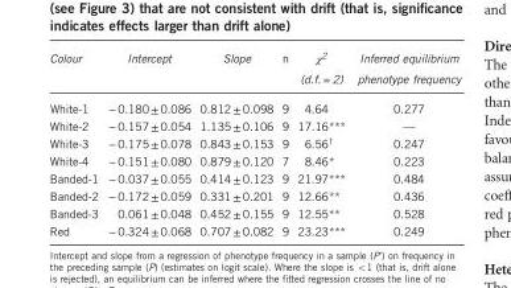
<table><thead><tr><td>Colour</td><td>Intercept</td><td>Slope</td><td>n</td><td>χ<sup>2</sup> (d.f.= 2)</td><td>Inferred equilibrium phenotype frequency</td></tr></thead><tbody><tr><td>White-1</td><td>− 0.180± 0.086</td><td>0.812 ± 0.098</td><td>9</td><td>4.64</td><td>0.277</td></tr><tr><td>White-2</td><td>− 0.157± 0.054</td><td>1.135 ± 0.106</td><td>9</td><td>17.16***</td><td>—</td></tr><tr><td>White-3</td><td>− 0.175± 0.078</td><td>0.843 ± 0.153</td><td>9</td><td>6.56<sup>†</sup></td><td>0.247</td></tr><tr><td>White-4</td><td>− 0.151± 0.080</td><td>0.879 ± 0.120</td><td>7</td><td>8.46*</td><td>0.223</td></tr><tr><td>Banded-1</td><td>− 0.037± 0.055</td><td>0.414 ± 0.123</td><td>9</td><td>21.97***</td><td>0.484</td></tr><tr><td>Banded-2</td><td>− 0.172± 0.059</td><td>0.331 ± 0.201</td><td>9</td><td>12.66**</td><td>0.436</td></tr><tr><td>Banded-3</td><td>0.061± 0.048</td><td>0.452 ± 0.155</td><td>9</td><td>12.55**</td><td>0.528</td></tr><tr><td>Red</td><td>− 0.324± 0.068</td><td>0.707 ± 0.082</td><td>9</td><td>23.23***</td><td>0.249</td></tr></tbody></table>